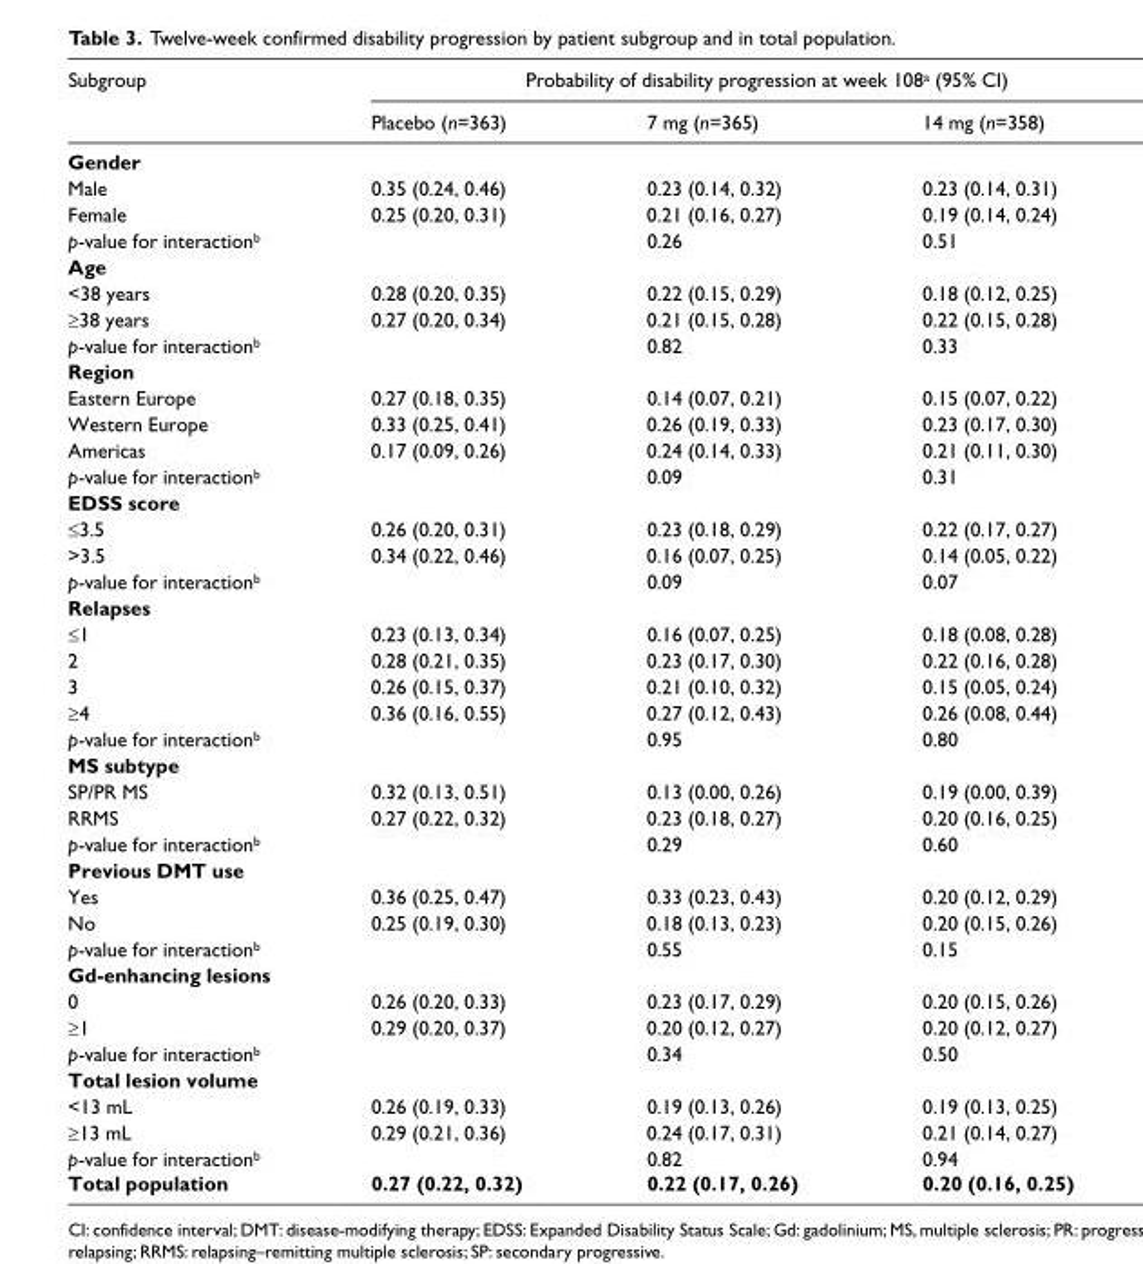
<table><thead><tr><td rowspan="2">Subgroup</td><td colspan="3">Probability of disability progression at week 108<sup>a</sup> (95% CI)</td></tr><tr><td>Placebo (n=363)</td><td>7 mg (n=365)</td><td>14 mg (n=358)</td></tr></thead><tbody><tr><td colspan="4">Gender</td></tr><tr><td>Male</td><td>0.35 (0.24, 0.46)</td><td>0.23 (0.14, 0.32)</td><td>0.23 (0.14, 0.31)</td></tr><tr><td>Female</td><td>0.25 (0.20, 0.31)</td><td>0.21 (0.16, 0.27)</td><td>0.19 (0.14, 0.24)</td></tr><tr><td>p-value for interaction<sup>b</sup></td><td></td><td>0.26</td><td>0.51</td></tr><tr><td colspan="4">Age</td></tr><tr><td>&lt;38 years</td><td>0.28 (0.20, 0.35)</td><td>0.22 (0.15, 0.29)</td><td>0.18 (0.12, 0.25)</td></tr><tr><td>≥38 years</td><td>0.27 (0.20, 0.34)</td><td>0.21 (0.15, 0.28)</td><td>0.22 (0.15, 0.28)</td></tr><tr><td>p-value for interaction<sup>b</sup></td><td></td><td>0.82</td><td>0.33</td></tr><tr><td colspan="4">Region</td></tr><tr><td>Eastern Europe</td><td>0.27 (0.18, 0.35)</td><td>0.14 (0.07, 0.21)</td><td>0.15 (0.07, 0.22)</td></tr><tr><td>Western Europe</td><td>0.33 (0.25, 0.41)</td><td>0.26 (0.19, 0.33)</td><td>0.23 (0.17, 0.30)</td></tr><tr><td>Americas</td><td>0.17 (0.09, 0.26)</td><td>0.24 (0.14, 0.33)</td><td>0.21 (0.11, 0.30)</td></tr><tr><td>p-value for interaction<sup>b</sup></td><td></td><td>0.09</td><td>0.31</td></tr><tr><td colspan="4">EDSS score</td></tr><tr><td>≤3.5</td><td>0.26 (0.20, 0.31)</td><td>0.23 (0.18, 0.29)</td><td>0.22 (0.17, 0.27)</td></tr><tr><td>&gt;3.5</td><td>0.34 (0.22, 0.46)</td><td>0.16 (0.07, 0.25)</td><td>0.14 (0.05, 0.22)</td></tr><tr><td>p-value for interaction<sup>b</sup></td><td></td><td>0.09</td><td>0.07</td></tr><tr><td colspan="4">Relapses</td></tr><tr><td>≤1</td><td>0.23 (0.13, 0.34)</td><td>0.16 (0.07, 0.25)</td><td>0.18 (0.08, 0.28)</td></tr><tr><td>2</td><td>0.28 (0.21, 0.35)</td><td>0.23 (0.17, 0.30)</td><td>0.22 (0.16, 0.28)</td></tr><tr><td>3</td><td>0.26 (0.15, 0.37)</td><td>0.21 (0.10, 0.32)</td><td>0.15 (0.05, 0.24)</td></tr><tr><td>≥4</td><td>0.36 (0.16, 0.55)</td><td>0.27 (0.12, 0.43)</td><td>0.26 (0.08, 0.44)</td></tr><tr><td>p-value for interaction<sup>b</sup></td><td></td><td>0.95</td><td>0.80</td></tr><tr><td colspan="4">MS subtype</td></tr><tr><td>SP/PR MS</td><td>0.32 (0.13, 0.51)</td><td>0.13 (0.00, 0.26)</td><td>0.19 (0.00, 0.39)</td></tr><tr><td>RRMS</td><td>0.27 (0.22, 0.32)</td><td>0.23 (0.18, 0.27)</td><td>0.20 (0.16, 0.25)</td></tr><tr><td>p-value for interaction<sup>b</sup></td><td></td><td>0.29</td><td>0.60</td></tr><tr><td colspan="4">Previous DMT use</td></tr><tr><td>Yes</td><td>0.36 (0.25, 0.47)</td><td>0.33 (0.23, 0.43)</td><td>0.20 (0.12, 0.29)</td></tr><tr><td>No</td><td>0.25 (0.19, 0.30)</td><td>0.18 (0.13, 0.23)</td><td>0.20 (0.15, 0.26)</td></tr><tr><td>p-value for interaction<sup>b</sup></td><td></td><td>0.55</td><td>0.15</td></tr><tr><td colspan="4">Gd-enhancing lesions</td></tr><tr><td>0</td><td>0.26 (0.20, 0.33)</td><td>0.23 (0.17, 0.29)</td><td>0.20 (0.15, 0.26)</td></tr><tr><td>≥1</td><td>0.29 (0.20, 0.37)</td><td>0.20 (0.12, 0.27)</td><td>0.20 (0.12, 0.27)</td></tr><tr><td>p-value for interaction<sup>b</sup></td><td></td><td>0.34</td><td>0.50</td></tr><tr><td colspan="4">Total lesion volume</td></tr><tr><td>&lt;13 mL</td><td>0.26 (0.19, 0.33)</td><td>0.19 (0.13, 0.26)</td><td>0.19 (0.13, 0.25)</td></tr><tr><td>≥13 mL</td><td>0.29 (0.21, 0.36)</td><td>0.24 (0.17, 0.31)</td><td>0.21 (0.14, 0.27)</td></tr><tr><td>p-value for interaction<sup>b</sup></td><td></td><td>0.82</td><td>0.94</td></tr><tr><td>Total population</td><td>0.27 (0.22, 0.32)</td><td>0.22 (0.17, 0.26)</td><td>0.20 (0.16, 0.25)</td></tr></tbody></table>